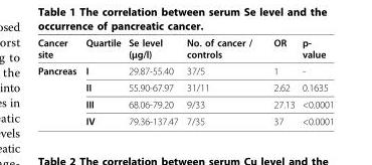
<table><thead><tr><td>Cancer site</td><td>Quartile</td><td>Se level (µg/l)</td><td>No. of cancer / controls</td><td>OR</td><td>p- value</td></tr></thead><tbody><tr><td rowspan="4">Pancreas</td><td>I</td><td>29.87-55.40</td><td>37/5</td><td>1</td><td>-</td></tr><tr><td>II</td><td>55.90-67.97</td><td>31/11</td><td>2.62</td><td>0.1635</td></tr><tr><td>III</td><td>68.06-79.20</td><td>9/33</td><td>27.13</td><td>&lt;0.0001</td></tr><tr><td>IV</td><td>79.36-137.47</td><td>7/35</td><td>37</td><td>&lt;0.0001</td></tr></tbody></table>